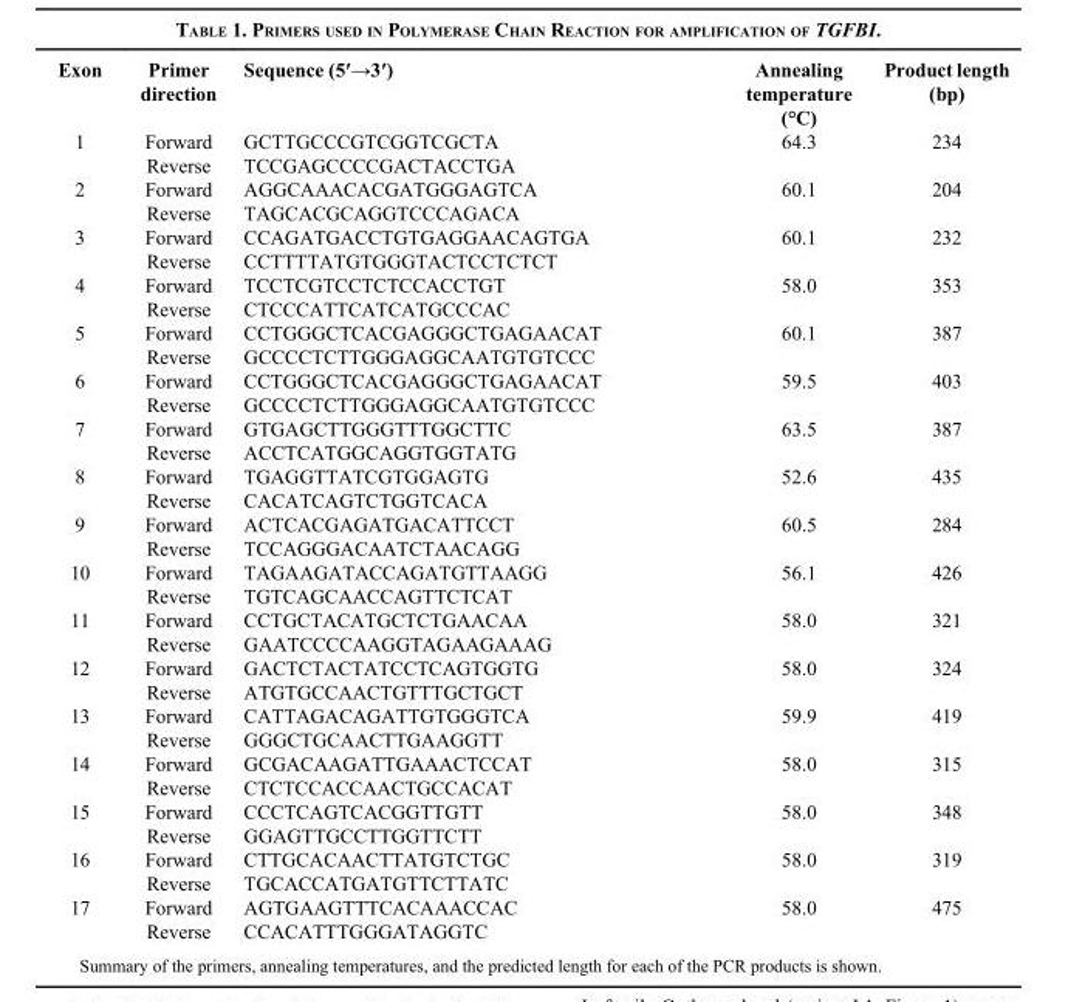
<table><thead><tr><td>Exon</td><td>Primer direction</td><td>Sequence (5′→3′)</td><td>Annealing temperature (°C)</td><td>Product length (bp)</td></tr></thead><tbody><tr><td rowspan="2">1</td><td>Forward</td><td>GCTTGCCCGTCGGTCGCTA</td><td>64.3</td><td>234</td></tr><tr><td>Reverse</td><td>TCCGAGCCCCGACTACCTGA</td><td></td><td></td></tr><tr><td rowspan="2">2</td><td>Forward</td><td>AGGCAAACACGATGGGAGTCA</td><td>60.1</td><td>204</td></tr><tr><td>Reverse</td><td>TAGCACGCAGGTCCCAGACA</td><td></td><td></td></tr><tr><td rowspan="2">3</td><td>Forward</td><td>CCAGATGACCTGTGAGGAACAGTGA</td><td>60.1</td><td>232</td></tr><tr><td>Reverse</td><td>CCTTTTATGTGGGTACTCCTCTCT</td><td></td><td></td></tr><tr><td rowspan="2">4</td><td>Forward</td><td>TCCTCGTCCTCTCCACCTGT</td><td>58.0</td><td>353</td></tr><tr><td>Reverse</td><td>CTCCCATTCATCATGCCCAC</td><td></td><td></td></tr><tr><td rowspan="2">5</td><td>Forward</td><td>CCTGGGCTCACGAGGGCTGAGAACAT</td><td>60.1</td><td>387</td></tr><tr><td>Reverse</td><td>GCCCCTCTTGGGAGGCAATGTGTCCC</td><td></td><td></td></tr><tr><td rowspan="2">6</td><td>Forward</td><td>CCTGGGCTCACGAGGGCTGAGAACAT</td><td>59.5</td><td>403</td></tr><tr><td>Reverse</td><td>GCCCCTCTTGGGAGGCAATGTGTCCC</td><td></td><td></td></tr><tr><td rowspan="2">7</td><td>Forward</td><td>GTGAGCTTGGGTTTGGCTTC</td><td>63.5</td><td>387</td></tr><tr><td>Reverse</td><td>ACCTCATGGCAGGTGGTATG</td><td></td><td></td></tr><tr><td rowspan="2">8</td><td>Forward</td><td>TGAGGTTATCGTGGAGTG</td><td>52.6</td><td>435</td></tr><tr><td>Reverse</td><td>CACATCAGTCTGGTCACA</td><td></td><td></td></tr><tr><td rowspan="2">9</td><td>Forward</td><td>ACTCACGAGATGACATTCCT</td><td>60.5</td><td>284</td></tr><tr><td>Reverse</td><td>TCCAGGGACAATCTAACAGG</td><td></td><td></td></tr><tr><td rowspan="2">10</td><td>Forward</td><td>TAGAAGATACCAGATGTTAAGG</td><td>56.1</td><td>426</td></tr><tr><td>Reverse</td><td>TGTCAGCAACCAGTTCTCAT</td><td></td><td></td></tr><tr><td rowspan="2">11</td><td>Forward</td><td>CCTGCTACATGCTCTGAACAA</td><td>58.0</td><td>321</td></tr><tr><td>Reverse</td><td>GAATCCCCAAGGTAGAAGAAAG</td><td></td><td></td></tr><tr><td rowspan="2">12</td><td>Forward</td><td>GACTCTACTATCCTCAGTGGTG</td><td>58.0</td><td>324</td></tr><tr><td>Reverse</td><td>ATGTGCCAACTGTTTGCTGCT</td><td></td><td></td></tr><tr><td rowspan="2">13</td><td>Forward</td><td>CATTAGACAGATTGTGGGTCA</td><td>59.9</td><td>419</td></tr><tr><td>Reverse</td><td>GGGCTGCAACTTGAAGGTT</td><td></td><td></td></tr><tr><td rowspan="2">14</td><td>Forward</td><td>GCGACAAGATTGAAACTCCAT</td><td>58.0</td><td>315</td></tr><tr><td>Reverse</td><td>CTCTCCACCAACTGCCACAT</td><td></td><td></td></tr><tr><td rowspan="2">15</td><td>Forward</td><td>CCCTCAGTCACGGTTGTT</td><td>58.0</td><td>348</td></tr><tr><td>Reverse</td><td>GGAGTTGCCTTGGTTCTT</td><td></td><td></td></tr><tr><td rowspan="2">16</td><td>Forward</td><td>CTTGCACAACTTATGTCTGC</td><td>58.0</td><td>319</td></tr><tr><td>Reverse</td><td>TGCACCATGATGTTCTTATC</td><td></td><td></td></tr><tr><td rowspan="2">17</td><td>Forward</td><td>AGTGAAGTTTCACAAACCAC</td><td>58.0</td><td>475</td></tr><tr><td>Reverse</td><td>CCACATTTGGGATAGGTC</td><td></td><td></td></tr></tbody></table>